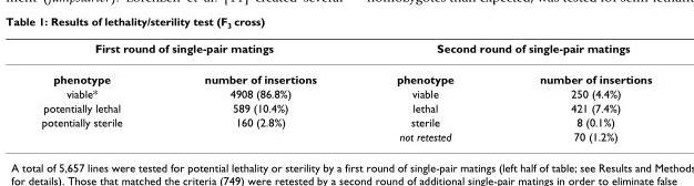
<table><thead><tr><td colspan="2">First round of single-pair matings</td><td colspan="2">Second round of single-pair matings</td></tr><tr><td>phenotype</td><td>number of insertions</td><td>phenotype</td><td>number of insertions</td></tr></thead><tbody><tr><td>viable*</td><td>4908 (86.8%)</td><td>viable</td><td>250 (4.4%)</td></tr><tr><td>potentially lethal</td><td>589 (10.4%)</td><td>lethal</td><td>421 (7.4%)</td></tr><tr><td rowspan="2">potentially sterile</td><td>160 (2.8%)</td><td>sterile</td><td>8 (0.1%)</td></tr><tr><td></td><td>not retested</td><td>70 (1.2%)</td></tr></tbody></table>